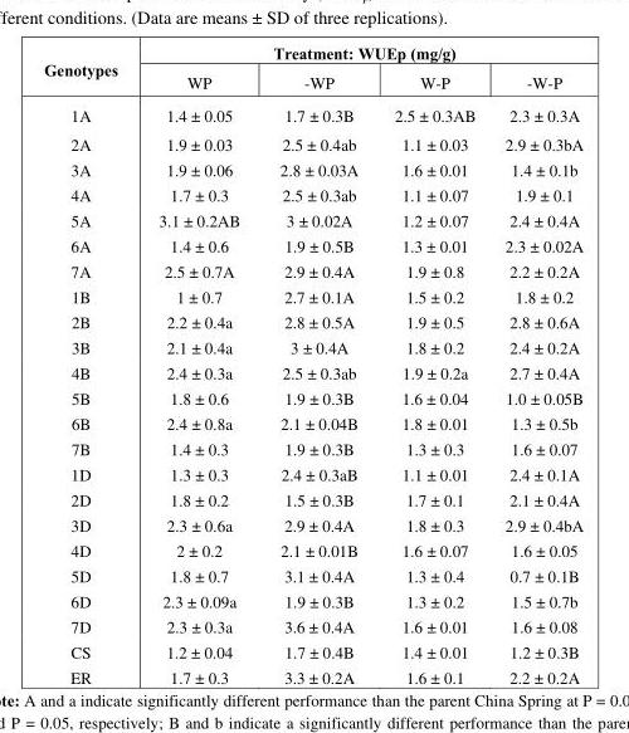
<table><thead><tr><td rowspan="2">Genotypes</td><td colspan="4">Treatment: WUEp (mg/g)</td></tr><tr><td>WP</td><td>-WP</td><td>W-P</td><td>-W-P</td></tr></thead><tbody><tr><td>1A</td><td>1.4 ± 0.05</td><td>1.7 ± 0.3B</td><td>2.5 ± 0.3AB</td><td>2.3 ± 0.3A</td></tr><tr><td>2A</td><td>1.9 ± 0.03</td><td>2.5 ± 0.4ab</td><td>1.1 ± 0.03</td><td>2.9 ± 0.3bA</td></tr><tr><td>3A</td><td>1.9 ± 0.06</td><td>2.8 ± 0.03A</td><td>1.6 ± 0.01</td><td>1.4 ± 0.1b</td></tr><tr><td>4A</td><td>1.7 ± 0.3</td><td>2.5 ± 0.3ab</td><td>1.1 ± 0.07</td><td>1.9 ± 0.1</td></tr><tr><td>5A</td><td>3.1 ± 0.2AB</td><td>3 ± 0.02A</td><td>1.2 ± 0.07</td><td>2.4 ± 0.4A</td></tr><tr><td>6A</td><td>1.4 ± 0.6</td><td>1.9 ± 0.5B</td><td>1.3 ± 0.01</td><td>2.3 ± 0.02A</td></tr><tr><td>7A</td><td>2.5 ± 0.7A</td><td>2.9 ± 0.4A</td><td>1.9 ± 0.8</td><td>2.2 ± 0.2A</td></tr><tr><td>1B</td><td>1 ± 0.7</td><td>2.7 ± 0.1A</td><td>1.5 ± 0.2</td><td>1.8 ± 0.2</td></tr><tr><td>2B</td><td>2.2 ± 0.4a</td><td>2.8 ± 0.5A</td><td>1.9 ± 0.5</td><td>2.8 ± 0.6A</td></tr><tr><td>3B</td><td>2.1 ± 0.4a</td><td>3 ± 0.4A</td><td>1.8 ± 0.2</td><td>2.4 ± 0.2A</td></tr><tr><td>4B</td><td>2.4 ± 0.3a</td><td>2.5 ± 0.3ab</td><td>1.9 ± 0.2a</td><td>2.7 ± 0.4A</td></tr><tr><td>5B</td><td>1.8 ± 0.6</td><td>1.9 ± 0.3B</td><td>1.6 ± 0.04</td><td>1.0 ± 0.05B</td></tr><tr><td>6B</td><td>2.4 ± 0.8a</td><td>2.1 ± 0.04B</td><td>1.8 ± 0.01</td><td>1.3 ± 0.5b</td></tr><tr><td>7B</td><td>1.4 ± 0.3</td><td>1.9 ± 0.3B</td><td>1.3 ± 0.3</td><td>1.6 ± 0.07</td></tr><tr><td>1D</td><td>1.3 ± 0.3</td><td>2.4 ± 0.3aB</td><td>1.1 ± 0.01</td><td>2.4 ± 0.1A</td></tr><tr><td>2D</td><td>1.8 ± 0.2</td><td>1.5 ± 0.3B</td><td>1.7 ± 0.1</td><td>2.1 ± 0.4A</td></tr><tr><td>3D</td><td>2.3 ± 0.6a</td><td>2.9 ± 0.4A</td><td>1.8 ± 0.3</td><td>2.9 ± 0.4bA</td></tr><tr><td>4D</td><td>2 ± 0.2</td><td>2.1 ± 0.01B</td><td>1.6 ± 0.07</td><td>1.6 ± 0.05</td></tr><tr><td>5D</td><td>1.8 ± 0.7</td><td>3.1 ± 0.4A</td><td>1.3 ± 0.4</td><td>0.7 ± 0.1B</td></tr><tr><td>6D</td><td>2.3 ± 0.09a</td><td>1.9 ± 0.3B</td><td>1.3 ± 0.2</td><td>1.5 ± 0.7b</td></tr><tr><td>7D</td><td>2.3 ± 0.3a</td><td>3.6 ± 0.4A</td><td>1.6 ± 0.01</td><td>1.6 ± 0.08</td></tr><tr><td>CS</td><td>1.2 ± 0.04</td><td>1.7 ± 0.4B</td><td>1.4 ± 0.01</td><td>1.2 ± 0.3B</td></tr><tr><td>ER</td><td>1.7 ± 0.3</td><td>3.3 ± 0.2A</td><td>1.6 ± 0.1</td><td>2.2 ± 0.2A</td></tr></tbody></table>